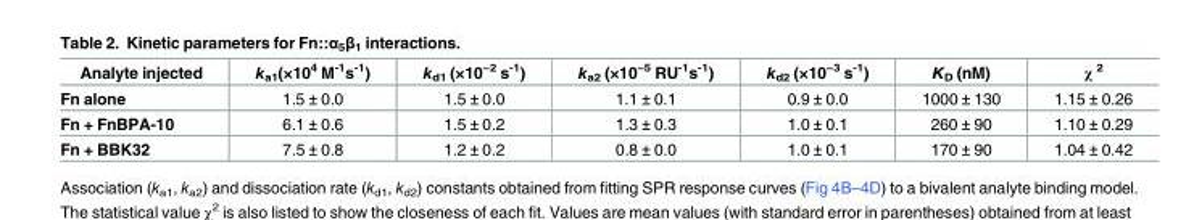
<table><thead><tr><td>Analyte injected</td><td>k<sub>a1</sub>(×10<sup>4</sup> M<sup>-1</sup>s<sup>-1</sup>)</td><td>k<sub>d1</sub> (×10<sup>−2</sup> s<sup>-1</sup>)</td><td>k<sub>a2</sub> (×10<sup>−5</sup> RU<sup>-1</sup>s<sup>-1</sup>)</td><td>k<sub>d2</sub> (×10<sup>−3</sup> s<sup>-1</sup>)</td><td>K<sub>D</sub> (nM)</td><td>χ <sup>2</sup></td></tr></thead><tbody><tr><td>Fn alone</td><td>1.5 ± 0.0</td><td>1.5 ± 0.0</td><td>1.1 ± 0.1</td><td>0.9 ± 0.0</td><td>1000 ± 130</td><td>1.15 ± 0.26</td></tr><tr><td>Fn + FnBPA-10</td><td>6.1 ± 0.6</td><td>1.5 ± 0.2</td><td>1.3 ± 0.3</td><td>1.0 ± 0.1</td><td>260 ± 90</td><td>1.10 ± 0.29</td></tr><tr><td>Fn + BBK32</td><td>7.5 ± 0.8</td><td>1.2 ± 0.2</td><td>0.8 ± 0.0</td><td>1.0 ± 0.1</td><td>170 ± 90</td><td>1.04 ± 0.42</td></tr></tbody></table>